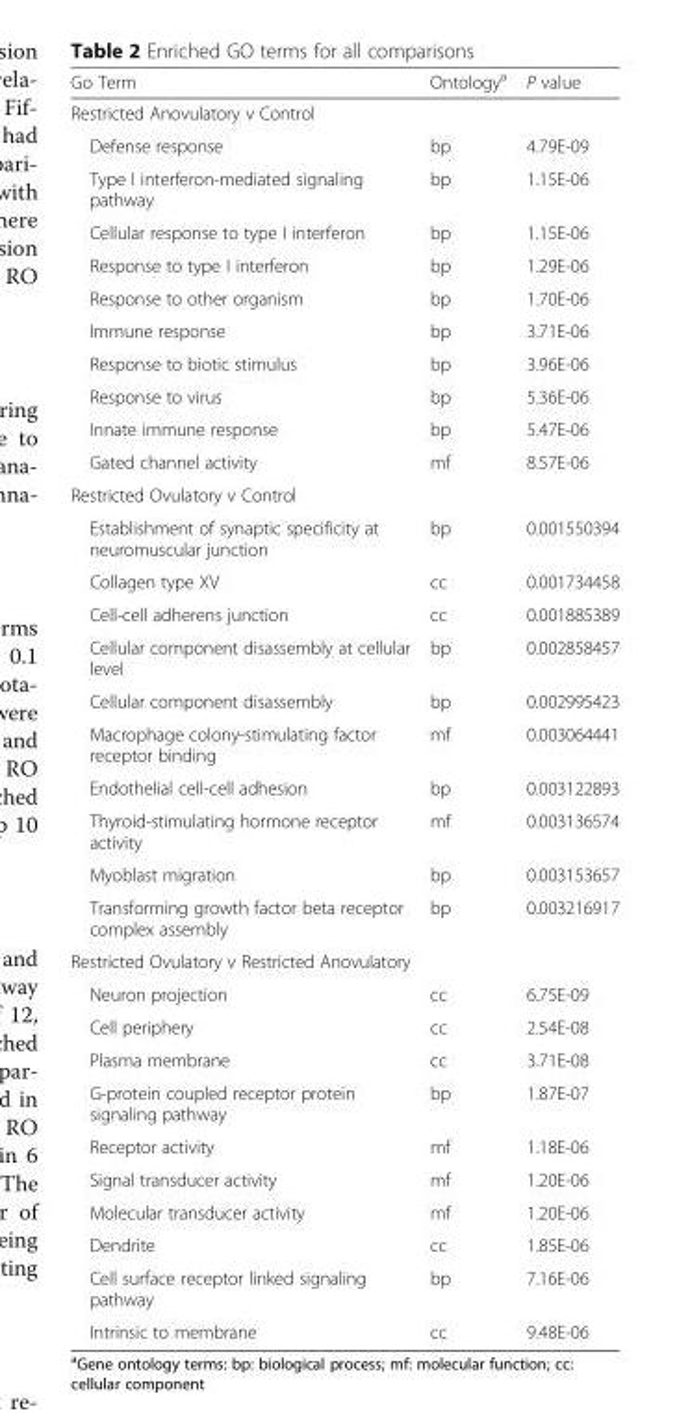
<table><thead><tr><td>Go Term</td><td>Ontology<sup>a</sup></td><td>P value</td></tr></thead><tbody><tr><td colspan="3">Restricted Anovulatory v Control</td></tr><tr><td>Defense response</td><td>bp</td><td>4.79E-09</td></tr><tr><td>Type I interferon-mediated signaling pathway</td><td>bp</td><td>1.15E-06</td></tr><tr><td>Cellular response to type I interferon</td><td>bp</td><td>1.15E-06</td></tr><tr><td>Response to type I interferon</td><td>bp</td><td>1.29E-06</td></tr><tr><td>Response to other organism</td><td>bp</td><td>1.70E-06</td></tr><tr><td>Immune response</td><td>bp</td><td>3.71E-06</td></tr><tr><td>Response to biotic stimulus</td><td>bp</td><td>3.96E-06</td></tr><tr><td>Response to virus</td><td>bp</td><td>5.36E-06</td></tr><tr><td>Innate immune response</td><td>bp</td><td>5.47E-06</td></tr><tr><td>Gated channel activity</td><td>mf</td><td>8.57E-06</td></tr><tr><td colspan="3">Restricted Ovulatory v Control</td></tr><tr><td>Establishment of synaptic specificity at neuromuscular junction</td><td>bp</td><td>0.001550394</td></tr><tr><td>Collagen type XV</td><td>cc</td><td>0.001734458</td></tr><tr><td>Cell-cell adherens junction</td><td>cc</td><td>0.001885389</td></tr><tr><td>Cellular component disassembly at cellular level</td><td>bp</td><td>0.002858457</td></tr><tr><td>Cellular component disassembly</td><td>bp</td><td>0.002995423</td></tr><tr><td>Macrophage colony-stimulating factor receptor binding</td><td>mf</td><td>0.003064441</td></tr><tr><td>Endothelial cell-cell adhesion</td><td>bp</td><td>0.003122893</td></tr><tr><td>Thyroid-stimulating hormone receptor activity</td><td>mf</td><td>0.003136574</td></tr><tr><td>Myoblast migration</td><td>bp</td><td>0.003153657</td></tr><tr><td>Transforming growth factor beta receptor complex assembly</td><td>bp</td><td>0.003216917</td></tr><tr><td colspan="3">Restricted Ovulatory v Restricted Anovulatory</td></tr><tr><td>Neuron projection</td><td>cc</td><td>6.75E-09</td></tr><tr><td>Cell periphery</td><td>cc</td><td>2.54E-08</td></tr><tr><td>Plasma membrane</td><td>cc</td><td>3.71E-08</td></tr><tr><td>G-protein coupled receptor protein signaling pathway</td><td>bp</td><td>1.87E-07</td></tr><tr><td>Receptor activity</td><td>mf</td><td>1.18E-06</td></tr><tr><td>Signal transducer activity</td><td>mf</td><td>1.20E-06</td></tr><tr><td>Molecular transducer activity</td><td>mf</td><td>1.20E-06</td></tr><tr><td>Dendrite</td><td>cc</td><td>1.85E-06</td></tr><tr><td>Cell surface receptor linked signaling pathway</td><td>bp</td><td>7.16E-06</td></tr><tr><td>Intrinsic to membrane</td><td>cc</td><td>9.48E-06</td></tr></tbody></table>